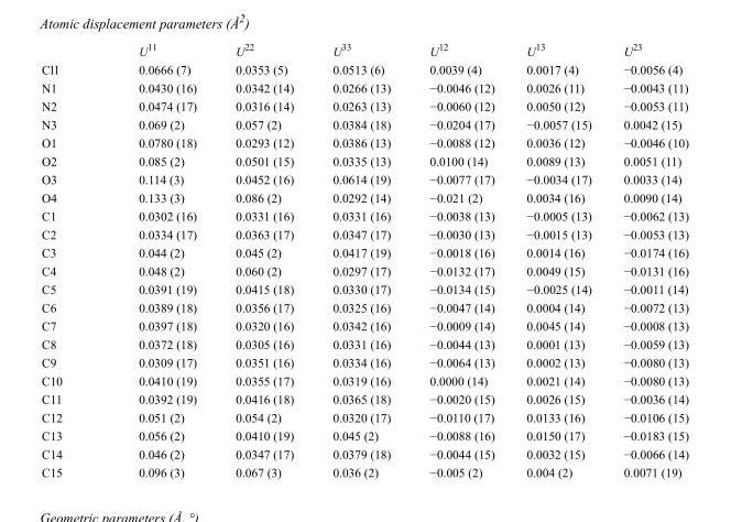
<table><thead><tr><td></td><td>U<sup>11</sup></td><td>U<sup>22</sup></td><td>U<sup>33</sup></td><td>U<sup>12</sup></td><td>U<sup>13</sup></td><td>U<sup>23</sup></td></tr></thead><tbody><tr><td>Cl1</td><td>0.0666 (7)</td><td>0.0353 (5)</td><td>0.0513 (6)</td><td>0.0039 (4)</td><td>0.0017 (4)</td><td>−0.0056 (4)</td></tr><tr><td>N1</td><td>0.0430 (16)</td><td>0.0342 (14)</td><td>0.0266 (13)</td><td>−0.0046 (12)</td><td>0.0026 (11)</td><td>−0.0043 (11)</td></tr><tr><td>N2</td><td>0.0474 (17)</td><td>0.0316 (14)</td><td>0.0263 (13)</td><td>−0.0060 (12)</td><td>0.0050 (12)</td><td>−0.0053 (11)</td></tr><tr><td>N3</td><td>0.069 (2)</td><td>0.057 (2)</td><td>0.0384 (18)</td><td>−0.0204 (17)</td><td>−0.0057 (15)</td><td>0.0042 (15)</td></tr><tr><td>O1</td><td>0.0780 (18)</td><td>0.0293 (12)</td><td>0.0386 (13)</td><td>−0.0088 (12)</td><td>0.0036 (12)</td><td>−0.0046 (10)</td></tr><tr><td>O2</td><td>0.085 (2)</td><td>0.0501 (15)</td><td>0.0335 (13)</td><td>0.0100 (14)</td><td>0.0089 (13)</td><td>0.0051 (11)</td></tr><tr><td>O3</td><td>0.114 (3)</td><td>0.0452 (16)</td><td>0.0614 (19)</td><td>−0.0077 (17)</td><td>−0.0034 (17)</td><td>0.0033 (14)</td></tr><tr><td>O4</td><td>0.133 (3)</td><td>0.086 (2)</td><td>0.0292 (14)</td><td>−0.021 (2)</td><td>0.0034 (16)</td><td>0.0090 (14)</td></tr><tr><td>C1</td><td>0.0302 (16)</td><td>0.0331 (16)</td><td>0.0331 (16)</td><td>−0.0038 (13)</td><td>−0.0005 (13)</td><td>−0.0062 (13)</td></tr><tr><td>C2</td><td>0.0334 (17)</td><td>0.0363 (17)</td><td>0.0347 (17)</td><td>−0.0030 (13)</td><td>−0.0015 (13)</td><td>−0.0053 (13)</td></tr><tr><td>C3</td><td>0.044 (2)</td><td>0.045 (2)</td><td>0.0417 (19)</td><td>−0.0018 (16)</td><td>0.0014 (16)</td><td>−0.0174 (16)</td></tr><tr><td>C4</td><td>0.048 (2)</td><td>0.060 (2)</td><td>0.0297 (17)</td><td>−0.0132 (17)</td><td>0.0049 (15)</td><td>−0.0131 (16)</td></tr><tr><td>C5</td><td>0.0391 (19)</td><td>0.0415 (18)</td><td>0.0330 (17)</td><td>−0.0134 (15)</td><td>−0.0025 (14)</td><td>−0.0011 (14)</td></tr><tr><td>C6</td><td>0.0389 (18)</td><td>0.0356 (17)</td><td>0.0325 (16)</td><td>−0.0047 (14)</td><td>0.0004 (14)</td><td>−0.0072 (13)</td></tr><tr><td>C7</td><td>0.0397 (18)</td><td>0.0320 (16)</td><td>0.0342 (16)</td><td>−0.0009 (14)</td><td>0.0045 (14)</td><td>−0.0008 (13)</td></tr><tr><td>C8</td><td>0.0372 (18)</td><td>0.0305 (16)</td><td>0.0331 (16)</td><td>−0.0044 (13)</td><td>0.0001 (13)</td><td>−0.0059 (13)</td></tr><tr><td>C9</td><td>0.0309 (17)</td><td>0.0351 (16)</td><td>0.0334 (16)</td><td>−0.0064 (13)</td><td>0.0002 (13)</td><td>−0.0080 (13)</td></tr><tr><td>C10</td><td>0.0410 (19)</td><td>0.0355 (17)</td><td>0.0319 (16)</td><td>0.0000 (14)</td><td>0.0021 (14)</td><td>−0.0080 (13)</td></tr><tr><td>C11</td><td>0.0392 (19)</td><td>0.0416 (18)</td><td>0.0365 (18)</td><td>−0.0020 (15)</td><td>0.0026 (15)</td><td>−0.0036 (14)</td></tr><tr><td>C12</td><td>0.051 (2)</td><td>0.054 (2)</td><td>0.0320 (17)</td><td>−0.0110 (17)</td><td>0.0133 (16)</td><td>−0.0106 (15)</td></tr><tr><td>C13</td><td>0.056 (2)</td><td>0.0410 (19)</td><td>0.045 (2)</td><td>−0.0088 (16)</td><td>0.0150 (17)</td><td>−0.0183 (15)</td></tr><tr><td>C14</td><td>0.046 (2)</td><td>0.0347 (17)</td><td>0.0379 (18)</td><td>−0.0044 (15)</td><td>0.0032 (15)</td><td>−0.0066 (14)</td></tr><tr><td>C15</td><td>0.096 (3)</td><td>0.067 (3)</td><td>0.036 (2)</td><td>−0.005 (2)</td><td>0.004 (2)</td><td>0.0071 (19)</td></tr></tbody></table>